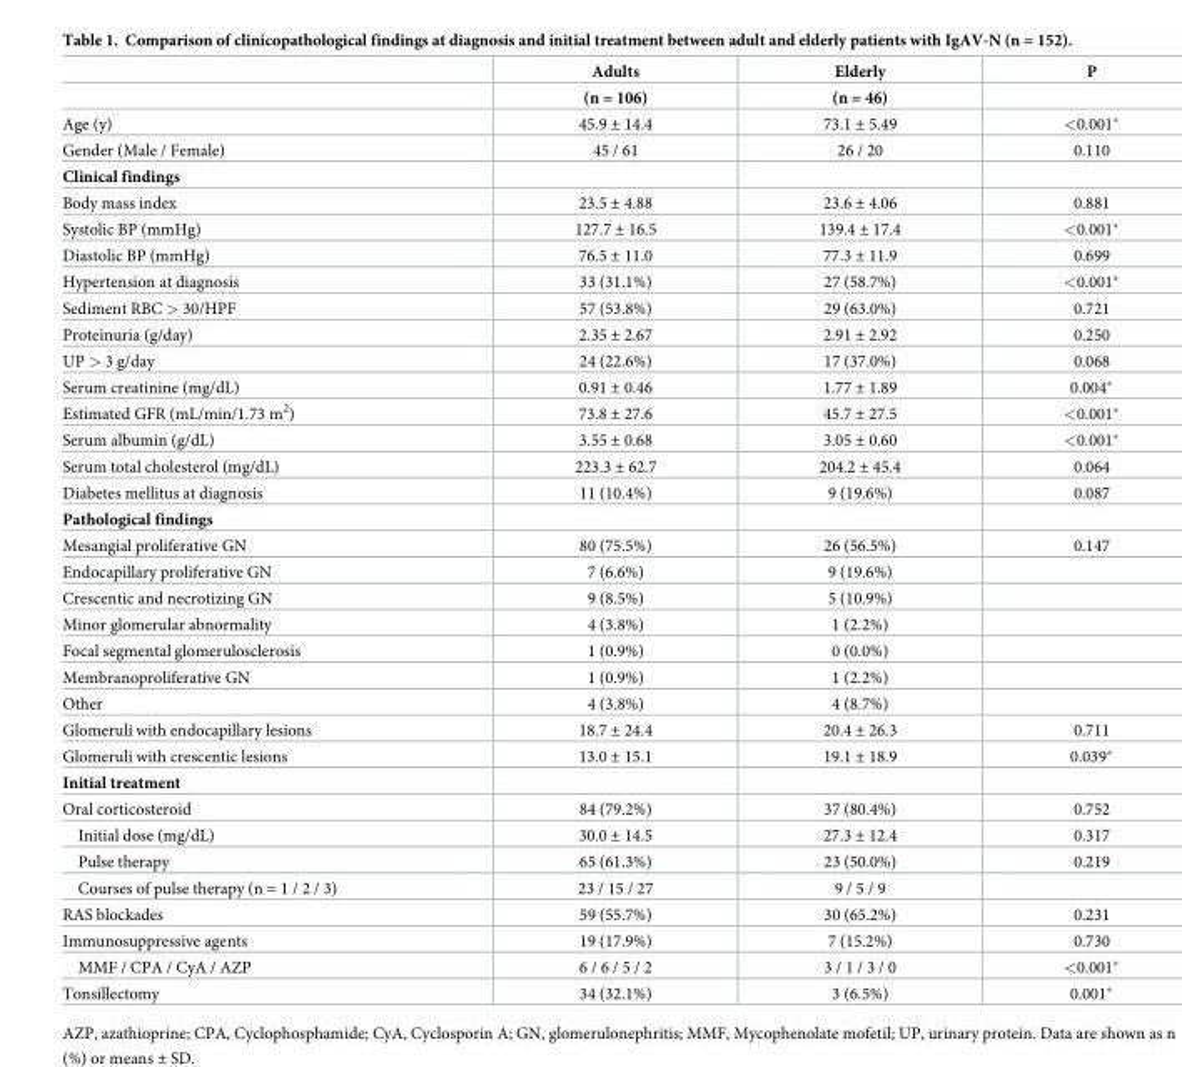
<table><thead><tr><td rowspan="2"></td><td rowspan="2">Adults (n = 106)</td><td rowspan="2">Elderly (n = 46)</td><td rowspan="2">P</td></tr><tr></tr></thead><tbody><tr><td>Age (y)</td><td>45.9 ± 14.4</td><td>73.1 ± 5.49</td><td>&lt;0.001*</td></tr><tr><td>Gender (Male / Female)</td><td>45 / 61</td><td>26 / 20</td><td>0.110</td></tr><tr><td colspan="4">Clinical findings</td></tr><tr><td>Body mass index</td><td>23.5 ± 4.88</td><td>23.6 ± 4.06</td><td>0.881</td></tr><tr><td>Systolic BP (mmHg)</td><td>127.7 ± 16.5</td><td>139.4 ± 17.4</td><td>&lt;0.001*</td></tr><tr><td>Diastolic BP (mmHg)</td><td>76.5 ± 11.0</td><td>77.3 ± 11.9</td><td>0.699</td></tr><tr><td>Hypertension at diagnosis</td><td>33 (31.1%)</td><td>27 (58.7%)</td><td>&lt;0.001*</td></tr><tr><td>Sediment RBC &gt; 30/HPF</td><td>57 (53.8%)</td><td>29 (63.0%)</td><td>0.721</td></tr><tr><td>Proteinuria (g/day)</td><td>2.35 ± 2.67</td><td>2.91 ± 2.92</td><td>0.250</td></tr><tr><td>UP &gt; 3 g/day</td><td>24 (22.6%)</td><td>17 (37.0%)</td><td>0.068</td></tr><tr><td>Serum creatinine (mg/dL)</td><td>0.91 ± 0.46</td><td>1.77 ± 1.89</td><td>0.004*</td></tr><tr><td>Estimated GFR (mL/min/1.73 m<sup>2</sup>)</td><td>73.8 ± 27.6</td><td>45.7 ± 27.5</td><td>&lt;0.001*</td></tr><tr><td>Serum albumin (g/dL)</td><td>3.55 ± 0.68</td><td>3.05 ± 0.60</td><td>&lt;0.001*</td></tr><tr><td>Serum total cholesterol (mg/dL)</td><td>223.3 ± 62.7</td><td>204.2 ± 45.4</td><td>0.064</td></tr><tr><td>Diabetes mellitus at diagnosis</td><td>11 (10.4%)</td><td>9 (19.6%)</td><td>0.087</td></tr><tr><td colspan="4">Pathological findings</td></tr><tr><td>Mesangial proliferative GN</td><td>80 (75.5%)</td><td>26 (56.5%)</td><td>0.147</td></tr><tr><td>Endocapillary proliferative GN</td><td>7 (6.6%)</td><td>9 (19.6%)</td><td></td></tr><tr><td>Crescentic and necrotizing GN</td><td>9 (8.5%)</td><td>5 (10.9%)</td><td></td></tr><tr><td>Minor glomerular abnormality</td><td>4 (3.8%)</td><td>1 (2.2%)</td><td></td></tr><tr><td>Focal segmental glomerulosclerosis</td><td>1 (0.9%)</td><td>0 (0.0%)</td><td></td></tr><tr><td>Membranoproliferative GN</td><td>1 (0.9%)</td><td>1 (2.2%)</td><td></td></tr><tr><td>Other</td><td>4 (3.8%)</td><td>4 (8.7%)</td><td></td></tr><tr><td>Glomeruli with endocapillary lesions</td><td>18.7 ± 24.4</td><td>20.4 ± 26.3</td><td>0.711</td></tr><tr><td>Glomeruli with crescentic lesions</td><td>13.0 ± 15.1</td><td>19.1 ± 18.9</td><td>0.039*</td></tr><tr><td colspan="4">Initial treatment</td></tr><tr><td>Oral corticosteroid</td><td>84 (79.2%)</td><td>37 (80.4%)</td><td>0.752</td></tr><tr><td>Initial dose (mg/dL)</td><td>30.0 ± 14.5</td><td>27.3 ± 12.4</td><td>0.317</td></tr><tr><td>Pulse therapy</td><td>65 (61.3%)</td><td>23 (50.0%)</td><td>0.219</td></tr><tr><td>Courses of pulse therapy (n = 1 / 2 / 3)</td><td>23 / 15 / 27</td><td>9 / 5 / 9</td><td></td></tr><tr><td>RAS blockades</td><td>59 (55.7%)</td><td>30 (65.2%)</td><td>0.231</td></tr><tr><td>Immunosuppressive agents</td><td>19 (17.9%)</td><td>7 (15.2%)</td><td>0.730</td></tr><tr><td>MMF / CPA / CyA / AZP</td><td>6 / 6 / 5 / 2</td><td>3 / 1 / 3 / 0</td><td>&lt;0.001*</td></tr><tr><td>Tonsillectomy</td><td>34 (32.1%)</td><td>3 (6.5%)</td><td>0.001*</td></tr></tbody></table>